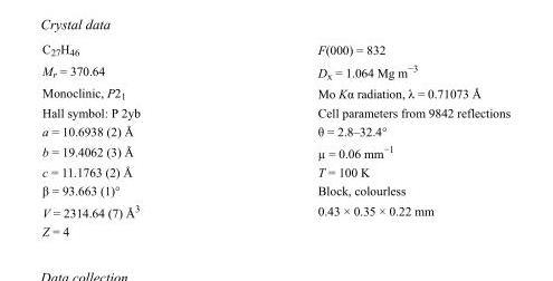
<table><tbody><tr><td>C<sub>27</sub>H<sub>46</sub></td><td>F(000) = 832</td></tr><tr><td>M<sub>r</sub> = 370.64</td><td>D<sub>x</sub> = 1.064 Mg m<sup>−3</sup></td></tr><tr><td>Monoclinic, P2<sub>1</sub></td><td>Mo Kα radiation, λ = 0.71073 Å</td></tr><tr><td>Hall symbol: P 2yb</td><td>Cell parameters from 9842 reflections</td></tr><tr><td>a = 10.6938 (2) Å</td><td>θ = 2.8–32.4°</td></tr><tr><td>b = 19.4062 (3) Å</td><td>µ = 0.06 mm<sup>−1</sup></td></tr><tr><td>c = 11.1763 (2) Å</td><td>T = 100 K</td></tr><tr><td>β = 93.663 (1)°</td><td>Block, colourless</td></tr><tr><td>V = 2314.64 (7) Å<sup>3</sup></td><td>0.43 × 0.35 × 0.22 mm</td></tr><tr><td>Z = 4</td><td></td></tr></tbody></table>